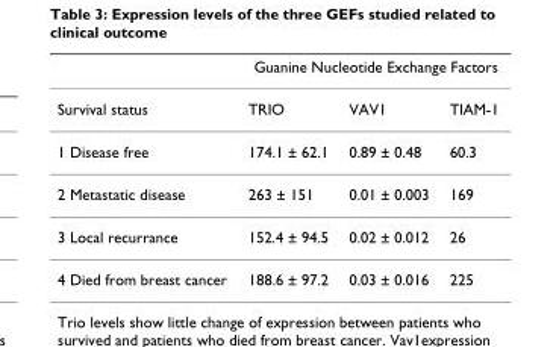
<table><thead><tr><td rowspan="2">Survival status</td><td colspan="3">Guanine Nucleotide Exchange Factors</td></tr><tr><td>TRIO</td><td>VAV1</td><td>TIAM-1</td></tr></thead><tbody><tr><td>1 Disease free</td><td>174.1 ± 62.1</td><td>0.89 ± 0.48</td><td>60.3</td></tr><tr><td>2 Metastatic disease</td><td>263 ± 151</td><td>0.01 ± 0.003</td><td>169</td></tr><tr><td>3 Local recurrance</td><td>152.4 ± 94.5</td><td>0.02 ± 0.012</td><td>26</td></tr><tr><td>4 Died from breast cancer</td><td>188.6 ± 97.2</td><td>0.03 ± 0.016</td><td>225</td></tr></tbody></table>